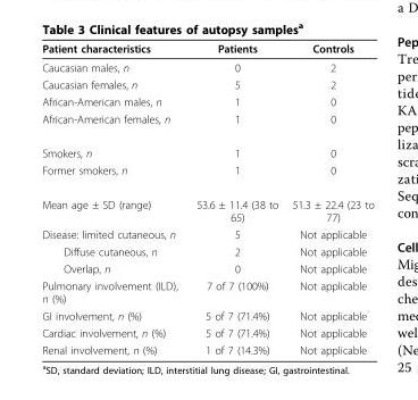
<table><thead><tr><td>Patient characteristics</td><td>Patients</td><td>Controls</td></tr></thead><tbody><tr><td>Caucasian males, n</td><td>0</td><td>2</td></tr><tr><td>Caucasian females, n</td><td>5</td><td>2</td></tr><tr><td>African-American males, n</td><td>1</td><td>0</td></tr><tr><td>African-American females, n</td><td>1</td><td>0</td></tr><tr><td>Smokers, n</td><td>1</td><td>0</td></tr><tr><td>Former smokers, n</td><td>1</td><td>0</td></tr><tr><td>Mean age ± SD (range)</td><td>53.6 ± 11.4 (38 to 65)</td><td>51.3 ± 22.4 (23 to 77)</td></tr><tr><td>Disease: limited cutaneous, n</td><td>5</td><td>Not applicable</td></tr><tr><td>Diffuse cutaneous, n</td><td>2</td><td>Not applicable</td></tr><tr><td>Overlap, n</td><td>0</td><td>Not applicable</td></tr><tr><td>Pulmonary involvement (ILD), n (%)</td><td>7 of 7 (100%)</td><td>Not applicable</td></tr><tr><td>GI involvement, n (%)</td><td>5 of 7 (71.4%)</td><td>Not applicable</td></tr><tr><td>Cardiac involvement, n (%)</td><td>5 of 7 (71.4%)</td><td>Not applicable</td></tr><tr><td>Renal involvement, n (%)</td><td>1 of 7 (14.3%)</td><td>Not applicable</td></tr></tbody></table>